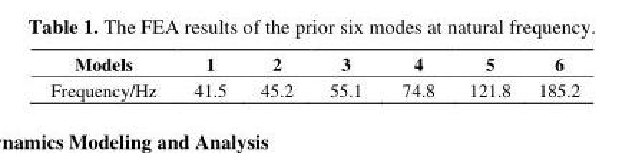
<table><thead><tr><td>Models</td><td>1</td><td>2</td><td>3</td><td>4</td><td>5</td><td>6</td></tr></thead><tbody><tr><td>Frequency/Hz</td><td>41.5</td><td>45.2</td><td>55.1</td><td>74.8</td><td>121.8</td><td>185.2</td></tr></tbody></table>